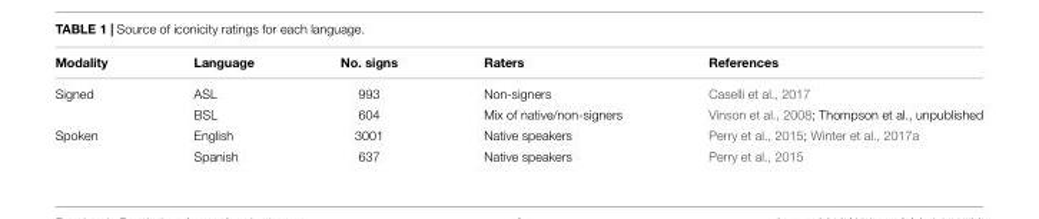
<table><thead><tr><td>Modality</td><td>Language</td><td>No. signs</td><td>Raters</td><td>References</td></tr></thead><tbody><tr><td rowspan="2">Signed</td><td>ASL</td><td>993</td><td>Non-signers</td><td>Caselli et al., 2017</td></tr><tr><td>BSL</td><td>604</td><td>Mix of native/non-signers</td><td>Vinson et al., 2008; Thompson et al., unpublished</td></tr><tr><td rowspan="2">Spoken</td><td>English</td><td>3001</td><td>Native speakers</td><td>Perry et al., 2015; Winter et al., 2017a</td></tr><tr><td>Spanish</td><td>637</td><td>Native speakers</td><td>Perry et al., 2015</td></tr></tbody></table>